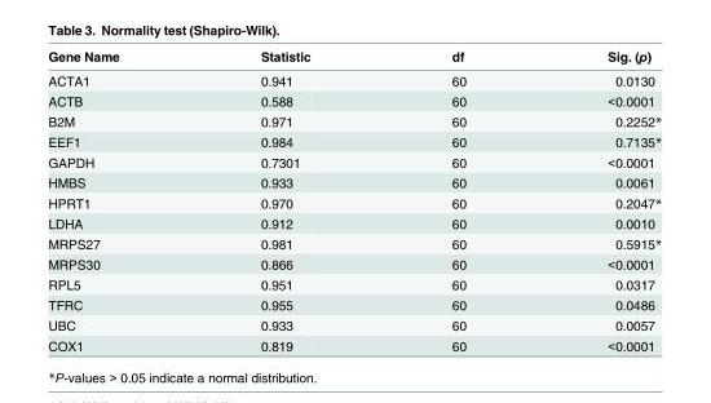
<table><thead><tr><td>Gene Name</td><td>Statistic</td><td>df</td><td>Sig. (p)</td></tr></thead><tbody><tr><td>ACTA1</td><td>0.941</td><td>60</td><td>0.0130</td></tr><tr><td>ACTB</td><td>0.588</td><td>60</td><td>&lt;0.0001</td></tr><tr><td>B2M</td><td>0.971</td><td>60</td><td>0.2252*</td></tr><tr><td>EEF1</td><td>0.984</td><td>60</td><td>0.7135*</td></tr><tr><td>GAPDH</td><td>0.7301</td><td>60</td><td>&lt;0.0001</td></tr><tr><td>HMBS</td><td>0.933</td><td>60</td><td>0.0061</td></tr><tr><td>HPRT1</td><td>0.970</td><td>60</td><td>0.2047*</td></tr><tr><td>LDHA</td><td>0.912</td><td>60</td><td>0.0010</td></tr><tr><td>MRPS27</td><td>0.981</td><td>60</td><td>0.5915*</td></tr><tr><td>MRPS30</td><td>0.866</td><td>60</td><td>&lt;0.0001</td></tr><tr><td>RPL5</td><td>0.951</td><td>60</td><td>0.0317</td></tr><tr><td>TFRC</td><td>0.955</td><td>60</td><td>0.0486</td></tr><tr><td>UBC</td><td>0.933</td><td>60</td><td>0.0057</td></tr><tr><td>COX1</td><td>0.819</td><td>60</td><td>&lt;0.0001</td></tr></tbody></table>